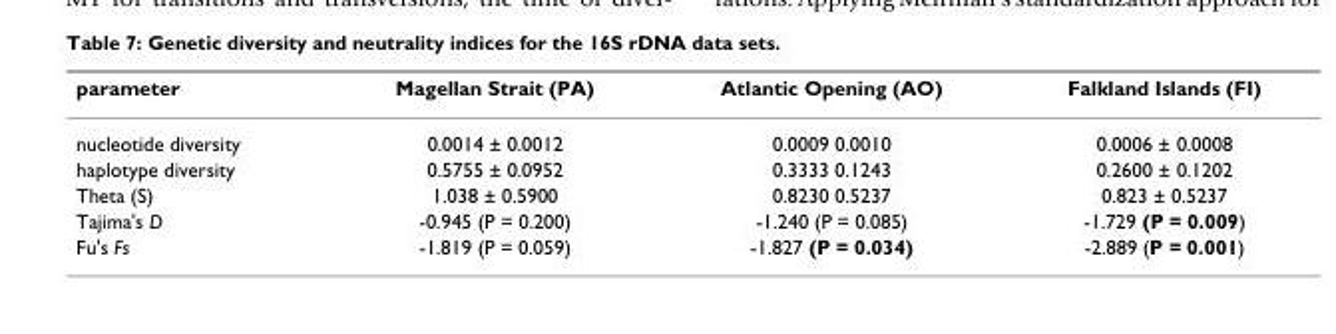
<table><thead><tr><td>parameter</td><td>Magellan Strait (PA)</td><td>Atlantic Opening (AO)</td><td>Falkland Islands (FI)</td></tr></thead><tbody><tr><td>nucleotide diversity</td><td>0.0014 ± 0.0012</td><td>0.0009 0.0010</td><td>0.0006 ± 0.0008</td></tr><tr><td>haplotype diversity</td><td>0.5755 ± 0.0952</td><td>0.3333 0.1243</td><td>0.2600 ± 0.1202</td></tr><tr><td>Theta (S)</td><td>1.038 ± 0.5900</td><td>0.8230 0.5237</td><td>0.823 ± 0.5237</td></tr><tr><td>Tajima&#x27;s D</td><td>-0.945 (P = 0.200)</td><td>-1.240 (P = 0.085)</td><td>-1.729 (P = 0.009)</td></tr><tr><td>Fu&#x27;s Fs</td><td>-1.819 (P = 0.059)</td><td>-1.827 (P = 0.034)</td><td>-2.889 (P = 0.001)</td></tr></tbody></table>